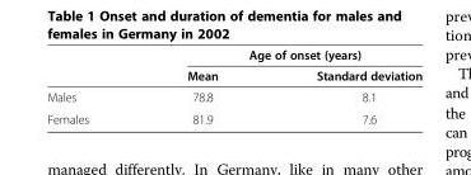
<table><thead><tr><td rowspan="2"></td><td colspan="2">Age of onset (years)</td></tr><tr><td>Mean</td><td>Standard deviation</td></tr></thead><tbody><tr><td>Males</td><td>78.8</td><td>8.1</td></tr><tr><td>Females</td><td>81.9</td><td>7.6</td></tr></tbody></table>